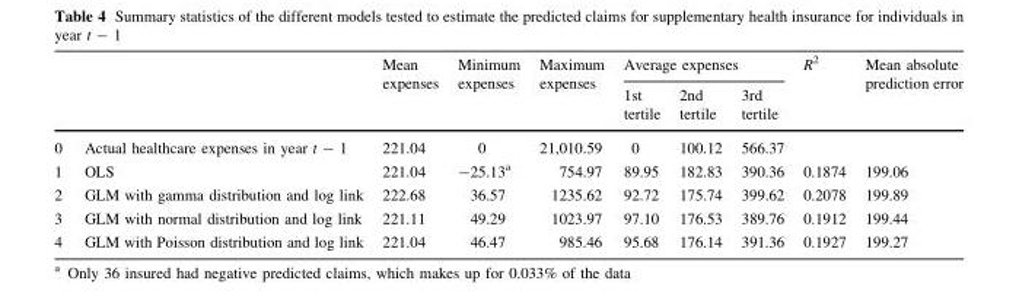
<table><thead><tr><td rowspan="2"></td><td rowspan="2"></td><td rowspan="2">Mean expenses</td><td rowspan="2">Minimum expenses</td><td rowspan="2">Maximum expenses</td><td colspan="3">Average expenses</td><td rowspan="2">R<sup>2</sup></td><td rowspan="2">Mean absolute prediction error</td></tr><tr><td>1st tertile</td><td>2nd tertile</td><td>3rd tertile</td></tr></thead><tbody><tr><td>0</td><td>Actual healthcare expenses in year t - 1</td><td>221.04</td><td>0</td><td>21,010.59</td><td>0</td><td>100.12</td><td>566.37</td><td></td><td></td></tr><tr><td>1</td><td>OLS</td><td>221.04</td><td>-25.13<sup>a</sup></td><td>754.97</td><td>89.95</td><td>182.83</td><td>390.36</td><td>0.1874</td><td>199.06</td></tr><tr><td>2</td><td>GLM with gamma distribution and log link</td><td>222.68</td><td>36.57</td><td>1235.62</td><td>92.72</td><td>175.74</td><td>399.62</td><td>0.2078</td><td>199.89</td></tr><tr><td>3</td><td>GLM with normal distribution and log link</td><td>221.11</td><td>49.29</td><td>1023.97</td><td>97.10</td><td>176.53</td><td>389.76</td><td>0.1912</td><td>199.44</td></tr><tr><td>4</td><td>GLM with Poisson distribution and log link</td><td>221.04</td><td>46.47</td><td>985.46</td><td>95.68</td><td>176.14</td><td>391.36</td><td>0.1927</td><td>199.27</td></tr></tbody></table>